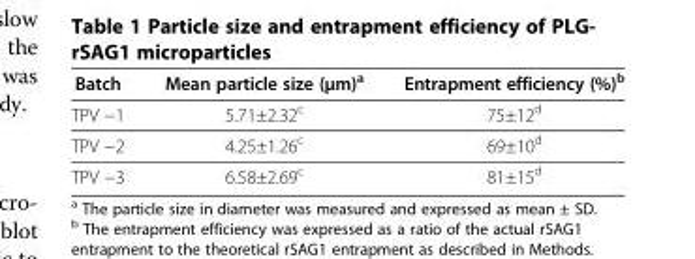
<table><thead><tr><td>Batch</td><td>Mean particle size (μm)<sup>a</sup></td><td>Entrapment efficiency (%)<sup>b</sup></td></tr></thead><tbody><tr><td>TPV −1</td><td>5.71±2.32<sup>c</sup></td><td>75±12<sup>d</sup></td></tr><tr><td>TPV −2</td><td>4.25±1.26<sup>c</sup></td><td>69±10<sup>d</sup></td></tr><tr><td>TPV −3</td><td>6.58±2.69<sup>c</sup></td><td>81±15<sup>d</sup></td></tr></tbody></table>